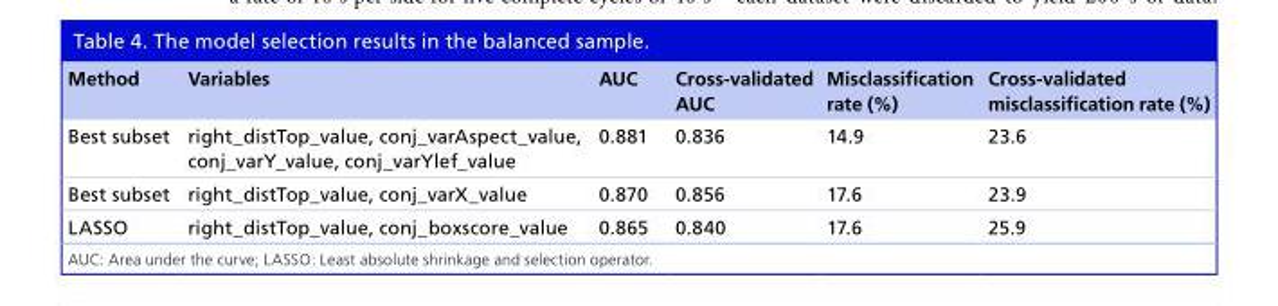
<table><thead><tr><td>Method</td><td>Variables</td><td>AUC</td><td>Cross-validated AUC</td><td>Misclassification rate (%)</td><td>Cross-validated misclassification rate (%)</td></tr></thead><tbody><tr><td>Best subset</td><td>right_distTop_value, conj_varAspect_value, conj_varY_value, conj_varYlef_value</td><td>0.881</td><td>0.836</td><td>14.9</td><td>23.6</td></tr><tr><td>Best subset</td><td>right_distTop_value, conj_varX_value</td><td>0.870</td><td>0.856</td><td>17.6</td><td>23.9</td></tr><tr><td>LASSO</td><td>right_distTop_value, conj_boxscore_value</td><td>0.865</td><td>0.840</td><td>17.6</td><td>25.9</td></tr></tbody></table>